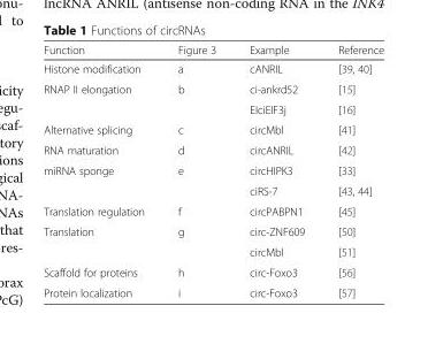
<table><thead><tr><td>Function</td><td>Figure 3</td><td>Example</td><td>Reference</td></tr></thead><tbody><tr><td>Histone modification</td><td>a</td><td>cANRIL</td><td>[39, 40]</td></tr><tr><td rowspan="2">RNAP II elongation</td><td rowspan="2">b</td><td>ci-ankrd52</td><td>[15]</td></tr><tr><td>EIciEIF3j</td><td>[16]</td></tr><tr><td>Alternative splicing</td><td>c</td><td>circMbl</td><td>[41]</td></tr><tr><td>RNA maturation</td><td>d</td><td>circANRIL</td><td>[42]</td></tr><tr><td rowspan="2">miRNA sponge</td><td rowspan="2">e</td><td>circHIPK3</td><td>[33]</td></tr><tr><td>ciRS-7</td><td>[43, 44]</td></tr><tr><td>Translation regulation</td><td>f</td><td>circPABPN1</td><td>[45]</td></tr><tr><td rowspan="2">Translation</td><td rowspan="2">g</td><td>circ-ZNF609</td><td>[50]</td></tr><tr><td>circMbl</td><td>[51]</td></tr><tr><td>Scaffold for proteins</td><td>h</td><td>circ-Foxo3</td><td>[56]</td></tr><tr><td>Protein localization</td><td>i</td><td>circ-Foxo3</td><td>[57]</td></tr></tbody></table>